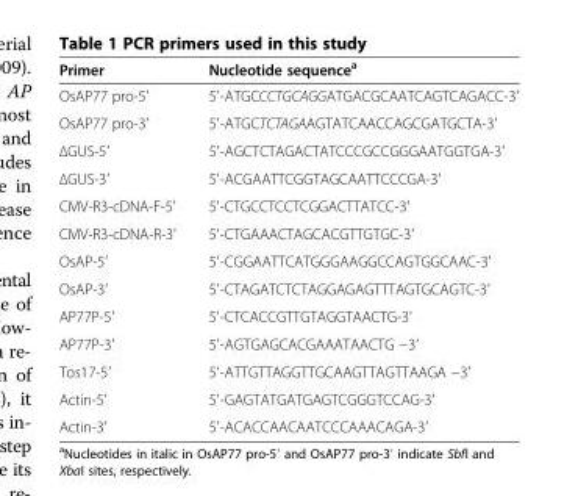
<table><thead><tr><td>Primer</td><td>Nucleotide sequence<sup>a</sup></td></tr></thead><tbody><tr><td>OsAP77 pro-5′</td><td>5′-ATGCCCTGCAGGATGACGCAATCAGTCAGACC-3′</td></tr><tr><td>OsAP77 pro-3′</td><td>5′-ATGCTCTAGAAGTATCAACCAGCGATGCTA-3′</td></tr><tr><td>ΔGUS-5′</td><td>5′-AGCTCTAGACTATCCCGCCGGGAATGGTGA-3′</td></tr><tr><td>ΔGUS-3′</td><td>5′-ACGAATTCGGTAGCAATTCCCGA-3′</td></tr><tr><td>CMV-R3-cDNA-F-5′</td><td>5′-CTGCCTCCTCGGACTTATCC-3′</td></tr><tr><td>CMV-R3-cDNA-R-3′</td><td>5′-CTGAAACTAGCACGTTGTGC-3′</td></tr><tr><td>OsAP-5′</td><td>5′-CGGAATTCATGGGAAGGCCAGTGGCAAC-3′</td></tr><tr><td>OsAP-3′</td><td>5′-CTAGATCTCTAGGAGAGTTTAGTGCAGTC-3′</td></tr><tr><td>AP77P-5′</td><td>5′-CTCACCGTTGTAGGTAACTG-3′</td></tr><tr><td>AP77P-3′</td><td>5′-AGTGAGCACGAAATAACTG −3′</td></tr><tr><td>Tos17-5′</td><td>5′-ATTGTTAGGTTGCAAGTTAGTTAAGA −3′</td></tr><tr><td>Actin-5′</td><td>5′-GAGTATGATGAGTCGGGTCCAG-3′</td></tr><tr><td>Actin-3′</td><td>5′-ACACCAACAATCCCAAACAGA-3′</td></tr></tbody></table>